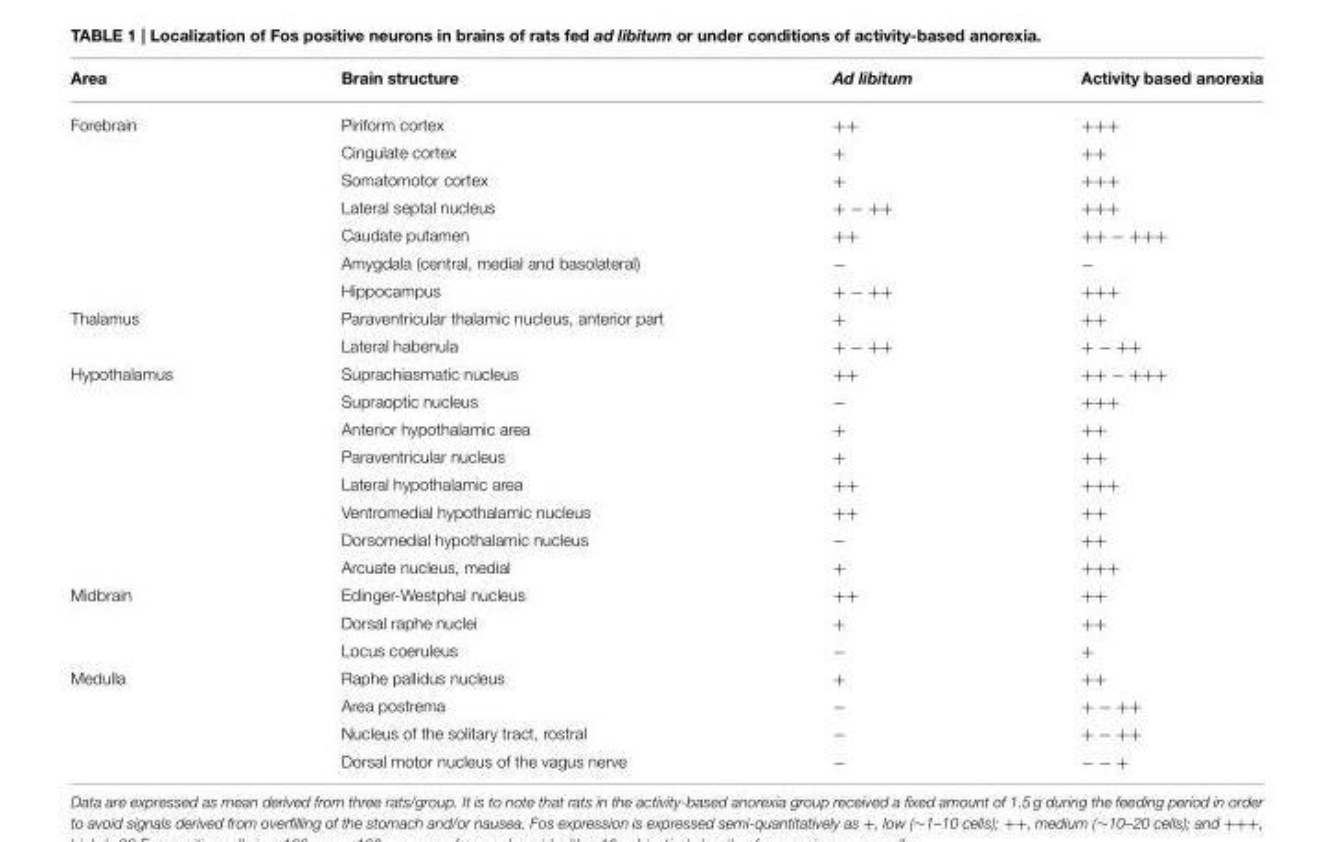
<table><thead><tr><td>Area</td><td>Brain structure</td><td>Ad libitum</td><td>Activity based anorexia</td></tr></thead><tbody><tr><td rowspan="7">Forebrain</td><td>Piriform cortex</td><td>++</td><td>+++</td></tr><tr><td>Cingulate cortex</td><td>+</td><td>++</td></tr><tr><td>Somatomotor cortex</td><td>+</td><td>+++</td></tr><tr><td>Lateral septal nucleus</td><td>+ − ++</td><td>+++</td></tr><tr><td>Caudate putamen</td><td>++</td><td>++ − +++</td></tr><tr><td>Amygdala (central, medial and basolateral)</td><td>−</td><td>−</td></tr><tr><td>Hippocampus</td><td>+ − ++</td><td>+++</td></tr><tr><td rowspan="2">Thalamus</td><td>Paraventricular thalamic nucleus, anterior part</td><td>+</td><td>++</td></tr><tr><td>Lateral habenula</td><td>+ − ++</td><td>+ − ++</td></tr><tr><td rowspan="8">Hypothalamus</td><td>Suprachiasmatic nucleus</td><td>++</td><td>++ − +++</td></tr><tr><td>Supraoptic nucleus</td><td>−</td><td>+++</td></tr><tr><td>Anterior hypothalamic area</td><td>+</td><td>++</td></tr><tr><td>Paraventricular nucleus</td><td>+</td><td>++</td></tr><tr><td>Lateral hypothalamic area</td><td>++</td><td>+++</td></tr><tr><td>Ventromedial hypothalamic nucleus</td><td>++</td><td>++</td></tr><tr><td>Dorsomedial hypothalamic nucleus</td><td>−</td><td>++</td></tr><tr><td>Arcuate nucleus, medial</td><td>+</td><td>+++</td></tr><tr><td rowspan="3">Midbrain</td><td>Edinger-Westphal nucleus</td><td>++</td><td>++</td></tr><tr><td>Dorsal raphe nuclei</td><td>+</td><td>++</td></tr><tr><td>Locus coeruleus</td><td>−</td><td>+</td></tr><tr><td rowspan="4">Medulla</td><td>Raphe pallidus nucleus</td><td>+</td><td>++</td></tr><tr><td>Area postrema</td><td>−</td><td>+ − ++</td></tr><tr><td>Nucleus of the solitary tract, rostral</td><td>−</td><td>+ − ++</td></tr><tr><td>Dorsal motor nucleus of the vagus nerve</td><td>−</td><td>− − +</td></tr></tbody></table>